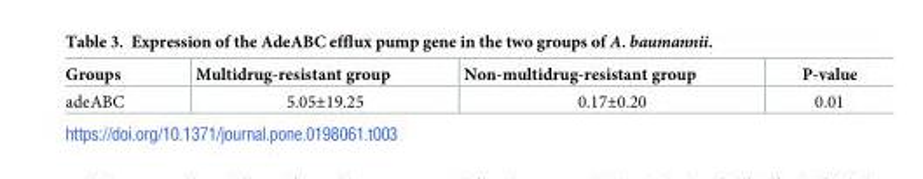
<table><thead><tr><td>Groups</td><td>Multidrug-resistant group</td><td>Non-multidrug-resistant group</td><td>P-value</td></tr></thead><tbody><tr><td>adeABC</td><td>5.05±19.25</td><td>0.17±0.20</td><td>0.01</td></tr></tbody></table>